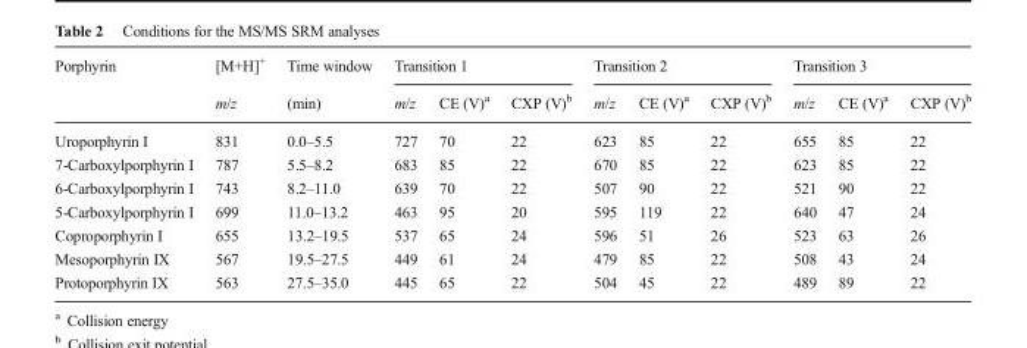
<table><thead><tr><td rowspan="2">Porphyrin</td><td rowspan="2">[M+H]<sup>+</sup> m/z</td><td rowspan="2">Time window (min)</td><td colspan="3">Transition 1</td><td colspan="3">Transition 2</td><td colspan="3">Transition 3</td></tr><tr><td>m/z</td><td>CE (V)<sup>a</sup></td><td>CXP (V)<sup>b</sup></td><td>m/z</td><td>CE (V)<sup>a</sup></td><td>CXP (V)<sup>b</sup></td><td>m/z</td><td>CE (V)<sup>a</sup></td><td>CXP (V)<sup>b</sup></td></tr></thead><tbody><tr><td>Uroporphyrin I</td><td>831</td><td>0.0–5.5</td><td>727</td><td>70</td><td>22</td><td>623</td><td>85</td><td>22</td><td>655</td><td>85</td><td>22</td></tr><tr><td>7-Carboxylporphyrin I</td><td>787</td><td>5.5–8.2</td><td>683</td><td>85</td><td>22</td><td>670</td><td>85</td><td>22</td><td>623</td><td>85</td><td>22</td></tr><tr><td>6-Carboxylporphyrin I</td><td>743</td><td>8.2–11.0</td><td>639</td><td>70</td><td>22</td><td>507</td><td>90</td><td>22</td><td>521</td><td>90</td><td>22</td></tr><tr><td>5-Carboxylporphyrin I</td><td>699</td><td>11.0–13.2</td><td>463</td><td>95</td><td>20</td><td>595</td><td>119</td><td>22</td><td>640</td><td>47</td><td>24</td></tr><tr><td>Coproporphyrin I</td><td>655</td><td>13.2–19.5</td><td>537</td><td>65</td><td>24</td><td>596</td><td>51</td><td>26</td><td>523</td><td>63</td><td>26</td></tr><tr><td>Mesoporphyrin IX</td><td>567</td><td>19.5–27.5</td><td>449</td><td>61</td><td>24</td><td>479</td><td>85</td><td>22</td><td>508</td><td>43</td><td>24</td></tr><tr><td>Protoporphyrin IX</td><td>563</td><td>27.5–35.0</td><td>445</td><td>65</td><td>22</td><td>504</td><td>45</td><td>22</td><td>489</td><td>89</td><td>22</td></tr></tbody></table>